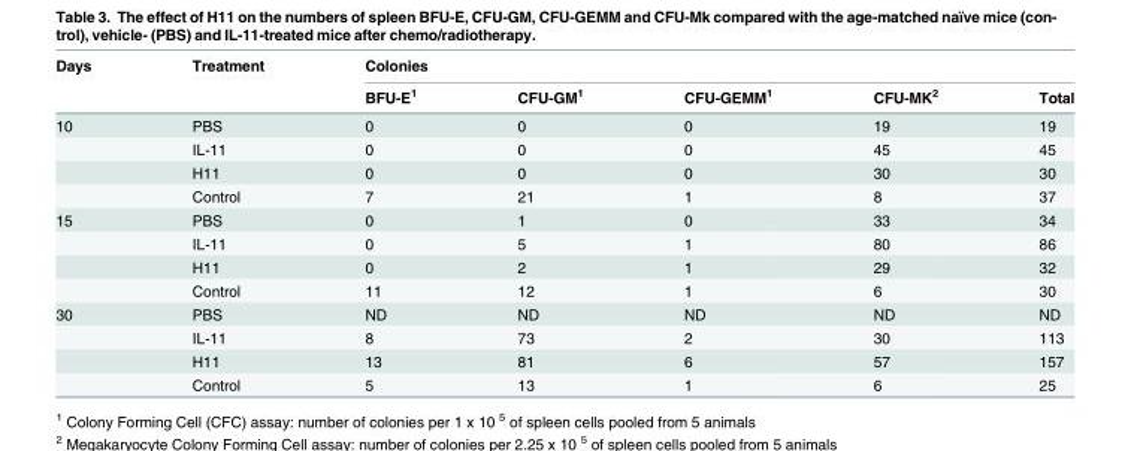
<table><thead><tr><td rowspan="2">Days</td><td rowspan="2">Treatment</td><td colspan="5">Colonies</td></tr><tr><td>BFU-E<sup>1</sup></td><td>CFU-GM<sup>1</sup></td><td>CFU-GEMM<sup>1</sup></td><td>CFU-MK<sup>2</sup></td><td>Total</td></tr></thead><tbody><tr><td rowspan="4">10</td><td>PBS</td><td>0</td><td>0</td><td>0</td><td>19</td><td>19</td></tr><tr><td>IL-11</td><td>0</td><td>0</td><td>0</td><td>45</td><td>45</td></tr><tr><td>H11</td><td>0</td><td>0</td><td>0</td><td>30</td><td>30</td></tr><tr><td>Control</td><td>7</td><td>21</td><td>1</td><td>8</td><td>37</td></tr><tr><td rowspan="4">15</td><td>PBS</td><td>0</td><td>1</td><td>0</td><td>33</td><td>34</td></tr><tr><td>IL-11</td><td>0</td><td>5</td><td>1</td><td>80</td><td>86</td></tr><tr><td>H11</td><td>0</td><td>2</td><td>1</td><td>29</td><td>32</td></tr><tr><td>Control</td><td>11</td><td>12</td><td>1</td><td>6</td><td>30</td></tr><tr><td rowspan="4">30</td><td>PBS</td><td>ND</td><td>ND</td><td>ND</td><td>ND</td><td>ND</td></tr><tr><td>IL-11</td><td>8</td><td>73</td><td>2</td><td>30</td><td>113</td></tr><tr><td>H11</td><td>13</td><td>81</td><td>6</td><td>57</td><td>157</td></tr><tr><td>Control</td><td>5</td><td>13</td><td>1</td><td>6</td><td>25</td></tr></tbody></table>